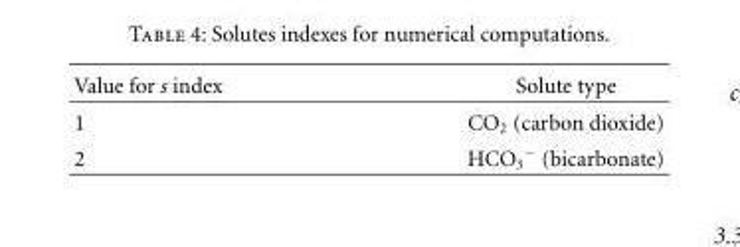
<table><thead><tr><td>Value for s index</td><td>Solute type</td></tr></thead><tbody><tr><td>1</td><td>CO<sub>2</sub> (carbon dioxide)</td></tr><tr><td>2</td><td>HCO<sub>3</sub> <sup>−</sup> (bicarbonate)</td></tr></tbody></table>